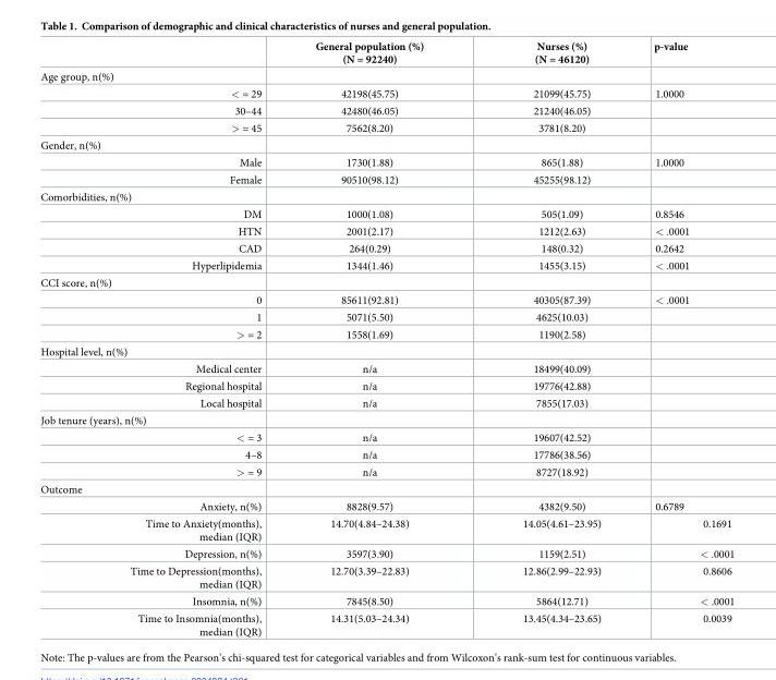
<table><thead><tr><td></td><td>General population (%) (N = 92240)</td><td>Nurses (%) (N = 46120)</td><td>p-value</td></tr></thead><tbody><tr><td colspan="4">Age group, n(%)</td></tr><tr><td>&lt; = 29</td><td>42198(45.75)</td><td>21099(45.75)</td><td>1.0000</td></tr><tr><td>30–44</td><td>42480(46.05)</td><td>21240(46.05)</td><td></td></tr><tr><td>&gt; = 45</td><td>7562(8.20)</td><td>3781(8.20)</td><td></td></tr><tr><td colspan="4">Gender, n(%)</td></tr><tr><td>Male</td><td>1730(1.88)</td><td>865(1.88)</td><td>1.0000</td></tr><tr><td>Female</td><td>90510(98.12)</td><td>45255(98.12)</td><td></td></tr><tr><td colspan="4">Comorbidities, n(%)</td></tr><tr><td>DM</td><td>1000(1.08)</td><td>505(1.09)</td><td>0.8546</td></tr><tr><td>HTN</td><td>2001(2.17)</td><td>1212(2.63)</td><td>&lt; .0001</td></tr><tr><td>CAD</td><td>264(0.29)</td><td>148(0.32)</td><td>0.2642</td></tr><tr><td>Hyperlipidemia</td><td>1344(1.46)</td><td>1455(3.15)</td><td>&lt; .0001</td></tr><tr><td colspan="4">CCI score, n(%)</td></tr><tr><td>0</td><td>85611(92.81)</td><td>40305(87.39)</td><td>&lt; .0001</td></tr><tr><td>1</td><td>5071(5.50)</td><td>4625(10.03)</td><td></td></tr><tr><td>&gt; = 2</td><td>1558(1.69)</td><td>1190(2.58)</td><td></td></tr><tr><td colspan="4">Hospital level, n(%)</td></tr><tr><td>Medical center</td><td>n/a</td><td>18499(40.09)</td><td></td></tr><tr><td>Regional hospital</td><td>n/a</td><td>19776(42.88)</td><td></td></tr><tr><td>Local hospital</td><td>n/a</td><td>7855(17.03)</td><td></td></tr><tr><td colspan="4">Job tenure (years), n(%)</td></tr><tr><td>&lt; = 3</td><td>n/a</td><td>19607(42.52)</td><td></td></tr><tr><td>4–8</td><td>n/a</td><td>17786(38.56)</td><td></td></tr><tr><td>&gt; = 9</td><td>n/a</td><td>8727(18.92)</td><td></td></tr><tr><td colspan="4">Outcome</td></tr><tr><td>Anxiety, n(%)</td><td>8828(9.57)</td><td>4382(9.50)</td><td>0.6789</td></tr><tr><td>Time to Anxiety(months), median (IQR)</td><td>14.70(4.84–24.38)</td><td>14.05(4.61–23.95)</td><td>0.1691</td></tr><tr><td>Depression, n(%)</td><td>3597(3.90)</td><td>1159(2.51)</td><td>&lt; .0001</td></tr><tr><td>Time to Depression(months), median (IQR)</td><td>12.70(3.39–22.83)</td><td>12.86(2.99–22.93)</td><td>0.8606</td></tr><tr><td>Insomnia, n(%)</td><td>7845(8.50)</td><td>5864(12.71)</td><td>&lt; .0001</td></tr><tr><td>Time to Insomnia(months), median (IQR)</td><td>14.31(5.03–24.34)</td><td>13.45(4.34–23.65)</td><td>0.0039</td></tr></tbody></table>